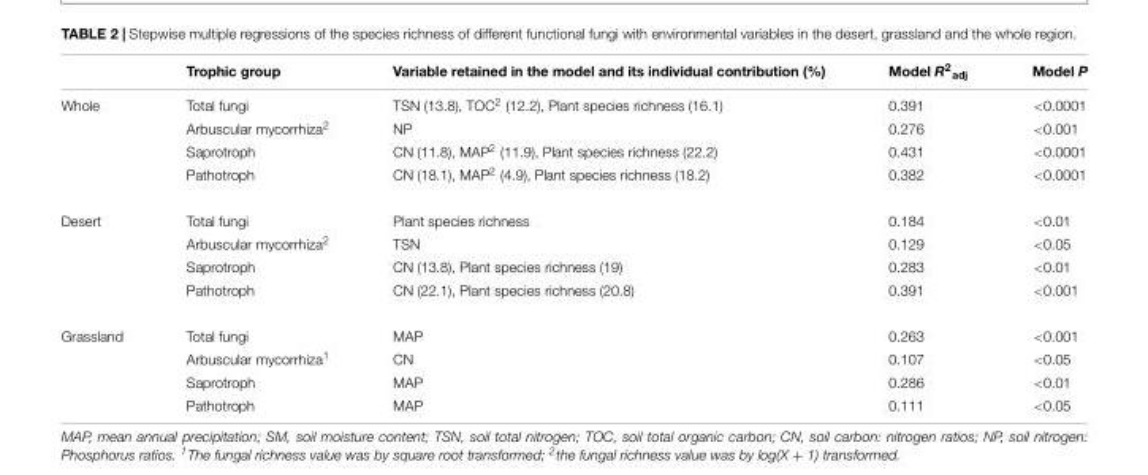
<table><thead><tr><td></td><td>Trophic group</td><td>Variable retained in the model and its individual contribution (%)</td><td>Model R<sup>2</sup><sub>adj</sub></td><td>Model P</td></tr></thead><tbody><tr><td rowspan="4">Whole</td><td>Total fungi</td><td>TSN (13.8), TOC<sup>2</sup> (12.2), Plant species richness (16.1)</td><td>0.391</td><td>&lt;0.0001</td></tr><tr><td>Arbuscular mycorrhiza<sup>2</sup></td><td>NP</td><td>0.276</td><td>&lt;0.001</td></tr><tr><td>Saprotroph</td><td>CN (11.8), MAP<sup>2</sup> (11.9), Plant species richness (22.2)</td><td>0.431</td><td>&lt;0.0001</td></tr><tr><td>Pathotroph</td><td>CN (18.1), MAP<sup>2</sup> (4.9), Plant species richness (18.2)</td><td>0.382</td><td>&lt;0.0001</td></tr><tr><td rowspan="4">Desert</td><td>Total fungi</td><td>Plant species richness</td><td>0.184</td><td>&lt;0.01</td></tr><tr><td>Arbuscular mycorrhiza<sup>2</sup></td><td>TSN</td><td>0.129</td><td>&lt;0.05</td></tr><tr><td>Saprotroph</td><td>CN (13.8), Plant species richness (19)</td><td>0.283</td><td>&lt;0.01</td></tr><tr><td>Pathotroph</td><td>CN (22.1), Plant species richness (20.8)</td><td>0.391</td><td>&lt;0.001</td></tr><tr><td rowspan="4">Grassland</td><td>Total fungi</td><td>MAP</td><td>0.263</td><td>&lt;0.001</td></tr><tr><td>Arbuscular mycorrhiza<sup>1</sup></td><td>CN</td><td>0.107</td><td>&lt;0.05</td></tr><tr><td>Saprotroph</td><td>MAP</td><td>0.286</td><td>&lt;0.01</td></tr><tr><td>Pathotroph</td><td>MAP</td><td>0.111</td><td>&lt;0.05</td></tr></tbody></table>